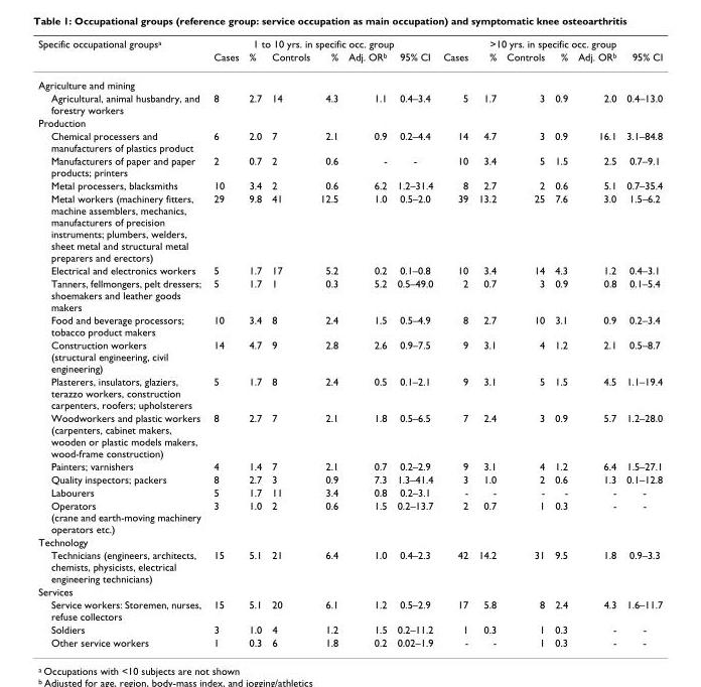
<table><thead><tr><td rowspan="2">Specific occupational groups<sup>a</sup></td><td colspan="6">1 to 10 yrs. in specific occ. group</td><td colspan="6">&gt;10 yrs. in specific occ. group</td></tr><tr><td>Cases</td><td>%</td><td>Controls</td><td>%</td><td>Adj. OR<sup>b</sup></td><td>95% CI</td><td>Cases</td><td>%</td><td>Controls</td><td>%</td><td>Adj. OR<sup>b</sup></td><td>95% CI</td></tr></thead><tbody><tr><td colspan="13">Agriculture and mining</td></tr><tr><td>Agricultural, animal husbandry, and forestry workers</td><td>8</td><td>2.7</td><td>14</td><td>4.3</td><td>1.1</td><td>0.4–3.4</td><td>5</td><td>1.7</td><td>3</td><td>0.9</td><td>2.0</td><td>0.4–13.0</td></tr><tr><td colspan="13">Production</td></tr><tr><td>Chemical processers and manufacturers of plastics product</td><td>6</td><td>2.0</td><td>7</td><td>2.1</td><td>0.9</td><td>0.2–4.4</td><td>14</td><td>4.7</td><td>3</td><td>0.9</td><td>16.1</td><td>3.1–84.8</td></tr><tr><td>Manufacturers of paper and paper products; printers</td><td>2</td><td>0.7</td><td>2</td><td>0.6</td><td>-</td><td>-</td><td>10</td><td>3.4</td><td>5</td><td>1.5</td><td>2.5</td><td>0.7–9.1</td></tr><tr><td>Metal processers, blacksmiths</td><td>10</td><td>3.4</td><td>2</td><td>0.6</td><td>6.2</td><td>1.2–31.4</td><td>8</td><td>2.7</td><td>2</td><td>0.6</td><td>5.1</td><td>0.7–35.4</td></tr><tr><td>Metal workers (machinery fitters, machine assemblers, mechanics, manufacturers of precision instruments; plumbers, welders, sheet metal and structural metal preparers and erectors)</td><td>29</td><td>9.8</td><td>41</td><td>12.5</td><td>1.0</td><td>0.5–2.0</td><td>39</td><td>13.2</td><td>25</td><td>7.6</td><td>3.0</td><td>1.5–6.2</td></tr><tr><td>Electrical and electronics workers</td><td>5</td><td>1.7</td><td>17</td><td>5.2</td><td>0.2</td><td>0.1–0.8</td><td>10</td><td>3.4</td><td>14</td><td>4.3</td><td>1.2</td><td>0.4–3.1</td></tr><tr><td>Tanners, fellmongers, pelt dressers; shoemakers and leather goods makers</td><td>5</td><td>1.7</td><td>1</td><td>0.3</td><td>5.2</td><td>0.5–49.0</td><td>2</td><td>0.7</td><td>3</td><td>0.9</td><td>0.8</td><td>0.1–5.4</td></tr><tr><td>Food and beverage processors; tobacco product makers</td><td>10</td><td>3.4</td><td>8</td><td>2.4</td><td>1.5</td><td>0.5–4.9</td><td>8</td><td>2.7</td><td>10</td><td>3.1</td><td>0.9</td><td>0.2–3.4</td></tr><tr><td>Construction workers (structural engineering, civil engineering)</td><td>14</td><td>4.7</td><td>9</td><td>2.8</td><td>2.6</td><td>0.9–7.5</td><td>9</td><td>3.1</td><td>4</td><td>1.2</td><td>2.1</td><td>0.5–8.7</td></tr><tr><td>Plasterers, insulators, glaziers, terazzo workers, construction carpenters, roofers; upholsterers</td><td>5</td><td>1.7</td><td>8</td><td>2.4</td><td>0.5</td><td>0.1–2.1</td><td>9</td><td>3.1</td><td>5</td><td>1.5</td><td>4.5</td><td>1.1–19.4</td></tr><tr><td>Woodworkers and plastic workers (carpenters, cabinet makers, wooden or plastic models makers, wood-frame construction)</td><td>8</td><td>2.7</td><td>7</td><td>2.1</td><td>1.8</td><td>0.5–6.5</td><td>7</td><td>2.4</td><td>3</td><td>0.9</td><td>5.7</td><td>1.2–28.0</td></tr><tr><td>Painters; varnishers</td><td>4</td><td>1.4</td><td>7</td><td>2.1</td><td>0.7</td><td>0.2–2.9</td><td>9</td><td>3.1</td><td>4</td><td>1.2</td><td>6.4</td><td>1.5–27.1</td></tr><tr><td>Quality inspectors; packers</td><td>8</td><td>2.7</td><td>3</td><td>0.9</td><td>7.3</td><td>1.3–41.4</td><td>3</td><td>1.0</td><td>2</td><td>0.6</td><td>1.3</td><td>0.1–12.8</td></tr><tr><td>Labourers</td><td>5</td><td>1.7</td><td>11</td><td>3.4</td><td>0.8</td><td>0.2–3.1</td><td>-</td><td>-</td><td>-</td><td>-</td><td>-</td><td>-</td></tr><tr><td>Operators (crane and earth-moving machinery operators etc.)</td><td>3</td><td>1.0</td><td>2</td><td>0.6</td><td>1.5</td><td>0.2–13.7</td><td>2</td><td>0.7</td><td>1</td><td>0.3</td><td>-</td><td>-</td></tr><tr><td colspan="13">Technology</td></tr><tr><td>Technicians (engineers, architects, chemists, physicists, electrical engineering technicians)</td><td>15</td><td>5.1</td><td>21</td><td>6.4</td><td>1.0</td><td>0.4–2.3</td><td>42</td><td>14.2</td><td>31</td><td>9.5</td><td>1.8</td><td>0.9–3.3</td></tr><tr><td colspan="13">Services</td></tr><tr><td>Service workers: Storemen, nurses, refuse collectors</td><td>15</td><td>5.1</td><td>20</td><td>6.1</td><td>1.2</td><td>0.5–2.9</td><td>17</td><td>5.8</td><td>8</td><td>2.4</td><td>4.3</td><td>1.6–11.7</td></tr><tr><td>Soldiers</td><td>3</td><td>1.0</td><td>4</td><td>1.2</td><td>1.5</td><td>0.2–11.2</td><td>1</td><td>0.3</td><td>1</td><td>0.3</td><td>-</td><td>-</td></tr><tr><td>Other service workers</td><td>1</td><td>0.3</td><td>6</td><td>1.8</td><td>0.2</td><td>0.02–1.9</td><td>-</td><td>-</td><td>1</td><td>0.3</td><td>-</td><td>-</td></tr></tbody></table>